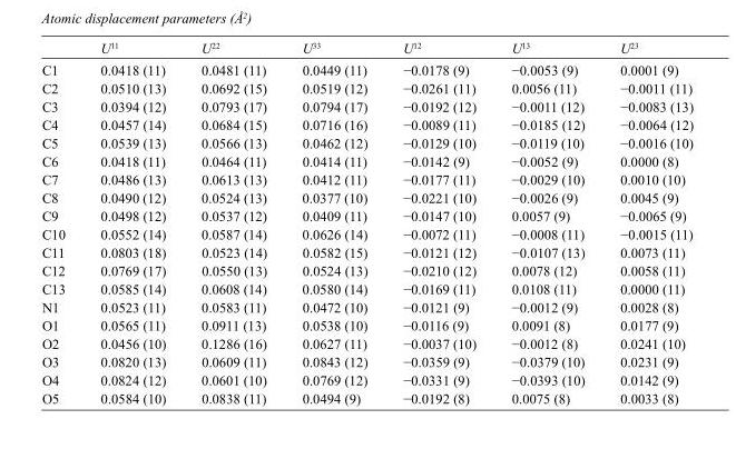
<table><thead><tr><td></td><td>U<sup>11</sup></td><td>U<sup>22</sup></td><td>U<sup>33</sup></td><td>U<sup>12</sup></td><td>U<sup>13</sup></td><td>U<sup>23</sup></td></tr></thead><tbody><tr><td>C1</td><td>0.0418 (11)</td><td>0.0481 (11)</td><td>0.0449 (11)</td><td>−0.0178 (9)</td><td>−0.0053 (9)</td><td>0.0001 (9)</td></tr><tr><td>C2</td><td>0.0510 (13)</td><td>0.0692 (15)</td><td>0.0519 (12)</td><td>−0.0261 (11)</td><td>0.0056 (11)</td><td>−0.0011 (11)</td></tr><tr><td>C3</td><td>0.0394 (12)</td><td>0.0793 (17)</td><td>0.0794 (17)</td><td>−0.0192 (12)</td><td>−0.0011 (12)</td><td>−0.0083 (13)</td></tr><tr><td>C4</td><td>0.0457 (14)</td><td>0.0684 (15)</td><td>0.0716 (16)</td><td>−0.0089 (11)</td><td>−0.0185 (12)</td><td>−0.0064 (12)</td></tr><tr><td>C5</td><td>0.0539 (13)</td><td>0.0566 (13)</td><td>0.0462 (12)</td><td>−0.0129 (10)</td><td>−0.0119 (10)</td><td>−0.0016 (10)</td></tr><tr><td>C6</td><td>0.0418 (11)</td><td>0.0464 (11)</td><td>0.0414 (11)</td><td>−0.0142 (9)</td><td>−0.0052 (9)</td><td>0.0000 (8)</td></tr><tr><td>C7</td><td>0.0486 (13)</td><td>0.0613 (13)</td><td>0.0412 (11)</td><td>−0.0177 (11)</td><td>−0.0029 (10)</td><td>0.0010 (10)</td></tr><tr><td>C8</td><td>0.0490 (12)</td><td>0.0524 (13)</td><td>0.0377 (10)</td><td>−0.0221 (10)</td><td>−0.0026 (9)</td><td>0.0045 (9)</td></tr><tr><td>C9</td><td>0.0498 (12)</td><td>0.0537 (12)</td><td>0.0409 (11)</td><td>−0.0147 (10)</td><td>0.0057 (9)</td><td>−0.0065 (9)</td></tr><tr><td>C10</td><td>0.0552 (14)</td><td>0.0587 (14)</td><td>0.0626 (14)</td><td>−0.0072 (11)</td><td>−0.0008 (11)</td><td>−0.0015 (11)</td></tr><tr><td>C11</td><td>0.0803 (18)</td><td>0.0523 (14)</td><td>0.0582 (15)</td><td>−0.0121 (12)</td><td>−0.0107 (13)</td><td>0.0073 (11)</td></tr><tr><td>C12</td><td>0.0769 (17)</td><td>0.0550 (13)</td><td>0.0524 (13)</td><td>−0.0210 (12)</td><td>0.0078 (12)</td><td>0.0058 (11)</td></tr><tr><td>C13</td><td>0.0585 (14)</td><td>0.0608 (14)</td><td>0.0580 (14)</td><td>−0.0169 (11)</td><td>0.0108 (11)</td><td>0.0000 (11)</td></tr><tr><td>N1</td><td>0.0523 (11)</td><td>0.0583 (11)</td><td>0.0472 (10)</td><td>−0.0121 (9)</td><td>−0.0012 (9)</td><td>0.0028 (8)</td></tr><tr><td>O1</td><td>0.0565 (11)</td><td>0.0911 (13)</td><td>0.0538 (10)</td><td>−0.0116 (9)</td><td>0.0091 (8)</td><td>0.0177 (9)</td></tr><tr><td>O2</td><td>0.0456 (10)</td><td>0.1286 (16)</td><td>0.0627 (11)</td><td>−0.0037 (10)</td><td>−0.0012 (8)</td><td>0.0241 (10)</td></tr><tr><td>O3</td><td>0.0820 (13)</td><td>0.0609 (11)</td><td>0.0843 (12)</td><td>−0.0359 (9)</td><td>−0.0379 (10)</td><td>0.0231 (9)</td></tr><tr><td>O4</td><td>0.0824 (12)</td><td>0.0601 (10)</td><td>0.0769 (12)</td><td>−0.0331 (9)</td><td>−0.0393 (10)</td><td>0.0142 (9)</td></tr><tr><td>O5</td><td>0.0584 (10)</td><td>0.0838 (11)</td><td>0.0494 (9)</td><td>−0.0192 (8)</td><td>0.0075 (8)</td><td>0.0033 (8)</td></tr></tbody></table>